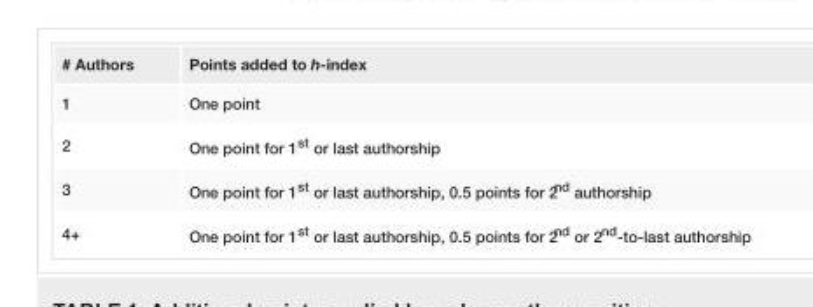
<table><tbody><tr><td># Authors</td><td>Points added to h-index</td></tr><tr><td>1</td><td>One point</td></tr><tr><td>2</td><td>One point for 1<sup>st</sup> or last authorship</td></tr><tr><td>3</td><td>One point for 1<sup>st</sup> or last authorship, 0.5 points for 2<sup>nd</sup> authorship</td></tr><tr><td>4+</td><td>One point for 1<sup>st</sup> or last authorship, 0.5 points for 2<sup>nd</sup> or 2<sup>nd</sup>-to-last authorship</td></tr></tbody></table>